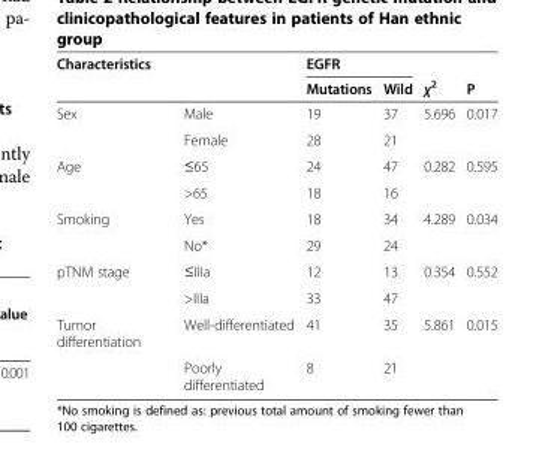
<table><thead><tr><td rowspan="2">Characteristics</td><td rowspan="2"></td><td colspan="2">EGFR</td><td rowspan="2">χ<sup>2</sup></td><td rowspan="2">P</td></tr><tr><td>Mutations</td><td>Wild</td></tr></thead><tbody><tr><td rowspan="2">Sex</td><td>Male</td><td>19</td><td>37</td><td rowspan="2">5.696</td><td rowspan="2">0.017</td></tr><tr><td>Female</td><td>28</td><td>21</td></tr><tr><td rowspan="2">Age</td><td>≤65</td><td>24</td><td>47</td><td rowspan="2">0.282</td><td rowspan="2">0.595</td></tr><tr><td>&gt;65</td><td>18</td><td>16</td></tr><tr><td rowspan="2">Smoking</td><td>Yes</td><td>18</td><td>34</td><td rowspan="2">4.289</td><td rowspan="2">0.034</td></tr><tr><td>No*</td><td>29</td><td>24</td></tr><tr><td rowspan="2">pTNM stage</td><td>≤IIIa</td><td>12</td><td>13</td><td rowspan="2">0.354</td><td rowspan="2">0.552</td></tr><tr><td>&gt;IIIa</td><td>33</td><td>47</td></tr><tr><td rowspan="2">Tumor differentiation</td><td>Well-differentiated</td><td>41</td><td>35</td><td rowspan="2">5.861</td><td rowspan="2">0.015</td></tr><tr><td>Poorly differentiated</td><td>8</td><td>21</td></tr></tbody></table>